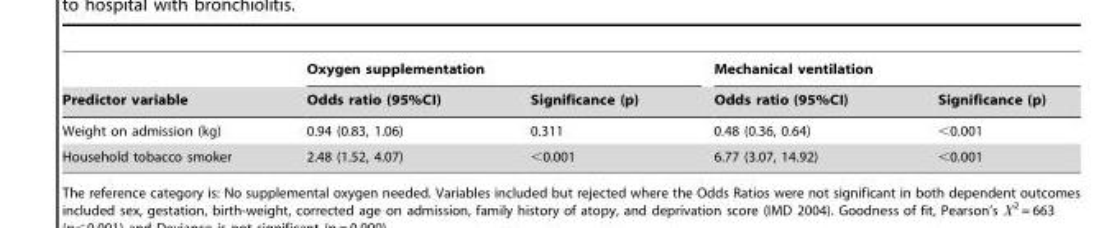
<table><thead><tr><td rowspan="2">Predictor variable</td><td colspan="2">Oxygen supplementation</td><td colspan="2">Mechanical ventilation</td></tr><tr><td>Odds ratio (95%CI)</td><td>Significance (p)</td><td>Odds ratio (95%CI)</td><td>Significance (p)</td></tr></thead><tbody><tr><td>Weight on admission (kg)</td><td>0.94 (0.83, 1.06)</td><td>0.311</td><td>0.48 (0.36, 0.64)</td><td>&lt;0.001</td></tr><tr><td>Household tobacco smoker</td><td>2.48 (1.52, 4.07)</td><td>&lt;0.001</td><td>6.77 (3.07, 14.92)</td><td>&lt;0.001</td></tr></tbody></table>